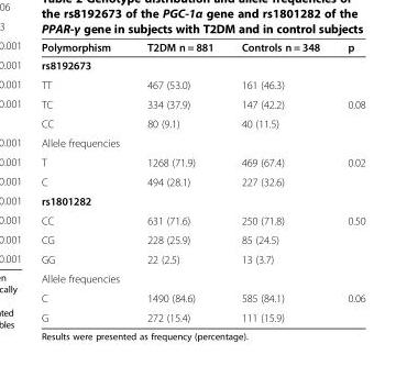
<table><thead><tr><td>Polymorphism</td><td>T2DM n = 881</td><td>Controls n = 348</td><td>p</td></tr></thead><tbody><tr><td colspan="4">rs8192673</td></tr><tr><td>TT</td><td>467 (53.0)</td><td>161 (46.3)</td><td></td></tr><tr><td>TC</td><td>334 (37.9)</td><td>147 (42.2)</td><td>0.08</td></tr><tr><td>CC</td><td>80 (9.1)</td><td>40 (11.5)</td><td></td></tr><tr><td colspan="4">Allele frequencies</td></tr><tr><td>T</td><td>1268 (71.9)</td><td>469 (67.4)</td><td rowspan="2">0.02</td></tr><tr><td>C</td><td>494 (28.1)</td><td>227 (32.6)</td></tr><tr><td colspan="4">rs1801282</td></tr><tr><td>CC</td><td>631 (71.6)</td><td>250 (71.8)</td><td rowspan="3">0.50</td></tr><tr><td>CG</td><td>228 (25.9)</td><td>85 (24.5)</td></tr><tr><td>GG</td><td>22 (2.5)</td><td>13 (3.7)</td></tr><tr><td colspan="4">Allele frequencies</td></tr><tr><td>C</td><td>1490 (84.6)</td><td>585 (84.1)</td><td rowspan="2">0.06</td></tr><tr><td>G</td><td>272 (15.4)</td><td>111 (15.9)</td></tr></tbody></table>